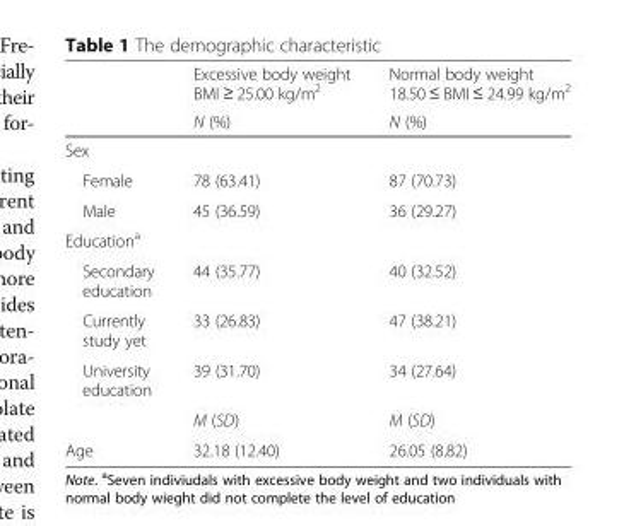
<table><thead><tr><td rowspan="2"></td><td rowspan="2">Excessive body weight BMI ≥ 25.00 kg/m<sup>2</sup> N (%)</td><td rowspan="2">Normal body weight 18.50 ≤ BMI ≤ 24.99 kg/m<sup>2</sup> N (%)</td></tr><tr></tr></thead><tbody><tr><td colspan="3">Sex</td></tr><tr><td>Female</td><td>78 (63.41)</td><td>87 (70.73)</td></tr><tr><td>Male</td><td>45 (36.59)</td><td>36 (29.27)</td></tr><tr><td colspan="3">Education<sup>a</sup></td></tr><tr><td>Secondary education</td><td>44 (35.77)</td><td>40 (32.52)</td></tr><tr><td>Currently study yet</td><td>33 (26.83)</td><td>47 (38.21)</td></tr><tr><td rowspan="2">University education</td><td>39 (31.70)</td><td>34 (27.64)</td></tr><tr><td>M (SD)</td><td>M (SD)</td></tr><tr><td>Age</td><td>32.18 (12.40)</td><td>26.05 (8.82)</td></tr></tbody></table>